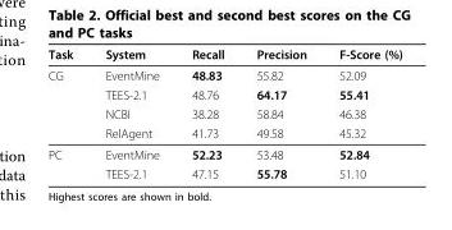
<table><thead><tr><td>Task</td><td>System</td><td>Recall</td><td>Precision</td><td>F-Score (%)</td></tr></thead><tbody><tr><td rowspan="4">CG</td><td>EventMine</td><td>48.83</td><td>55.82</td><td>52.09</td></tr><tr><td>TEES-2.1</td><td>48.76</td><td>64.17</td><td>55.41</td></tr><tr><td>NCBI</td><td>38.28</td><td>58.84</td><td>46.38</td></tr><tr><td>RelAgent</td><td>41.73</td><td>49.58</td><td>45.32</td></tr><tr><td rowspan="2">PC</td><td>EventMine</td><td>52.23</td><td>53.48</td><td>52.84</td></tr><tr><td>TEES-2.1</td><td>47.15</td><td>55.78</td><td>51.10</td></tr></tbody></table>